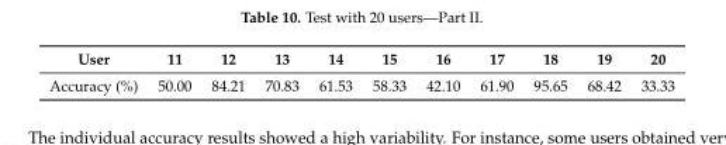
<table><thead><tr><td>User</td><td>11</td><td>12</td><td>13</td><td>14</td><td>15</td><td>16</td><td>17</td><td>18</td><td>19</td><td>20</td></tr></thead><tbody><tr><td>Accuracy (%)</td><td>50.00</td><td>84.21</td><td>70.83</td><td>61.53</td><td>58.33</td><td>42.10</td><td>61.90</td><td>95.65</td><td>68.42</td><td>33.33</td></tr></tbody></table>